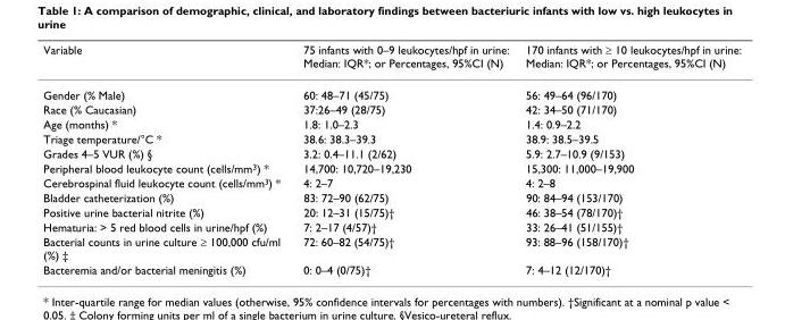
<table><thead><tr><td>Variable</td><td>75 infants with 0–9 leukocytes/hpf in urine: Median: IQR*; or Percentages, 95%CI (N)</td><td>170 infants with ≥ 10 leukocytes/hpf in urine: Median: IQR*; or Percentages, 95%CI (N)</td></tr></thead><tbody><tr><td>Gender (% Male)</td><td>60: 48–71 (45/75)</td><td>56: 49–64 (96/170)</td></tr><tr><td>Race (% Caucasian)</td><td>37:26–49 (28/75)</td><td>42: 34–50 (71/170)</td></tr><tr><td>Age (months) *</td><td>1.8: 1.0–2.3</td><td>1.4: 0.9–2.2</td></tr><tr><td>Triage temperature/°C *</td><td>38.6: 38.3–39.3</td><td>38.9: 38.5–39.5</td></tr><tr><td>Grades 4–5 VUR (%) §</td><td>3.2: 0.4–11.1 (2/62)</td><td>5.9: 2.7–10.9 (9/153)</td></tr><tr><td>Peripheral blood leukocyte count (cells/mm<sup>3</sup>) *</td><td>14,700: 10,720–19,230</td><td>15,300: 11,000–19,900</td></tr><tr><td>Cerebrospinal fluid leukocyte count (cells/mm<sup>3</sup>) *</td><td>4: 2–7</td><td>4: 2–8</td></tr><tr><td>Bladder catheterization (%)</td><td>83: 72–90 (62/75)</td><td>90: 84–94 (153/170)</td></tr><tr><td>Positive urine bacterial nitrite (%)</td><td>20: 12–31 (15/75)†</td><td>46: 38–54 (78/170)†</td></tr><tr><td>Hematuria: &gt; 5 red blood cells in urine/hpf (%)</td><td>7: 2–17 (4/57)†</td><td>33: 26–41 (51/155)†</td></tr><tr><td>Bacterial counts in urine culture ≥ 100,000 cfu/ml (%) ‡</td><td>72: 60–82 (54/75)†</td><td>93: 88–96 (158/170)†</td></tr><tr><td>Bacteremia and/or bacterial meningitis (%)</td><td>0: 0–4 (0/75)†</td><td>7: 4–12 (12/170)†</td></tr></tbody></table>